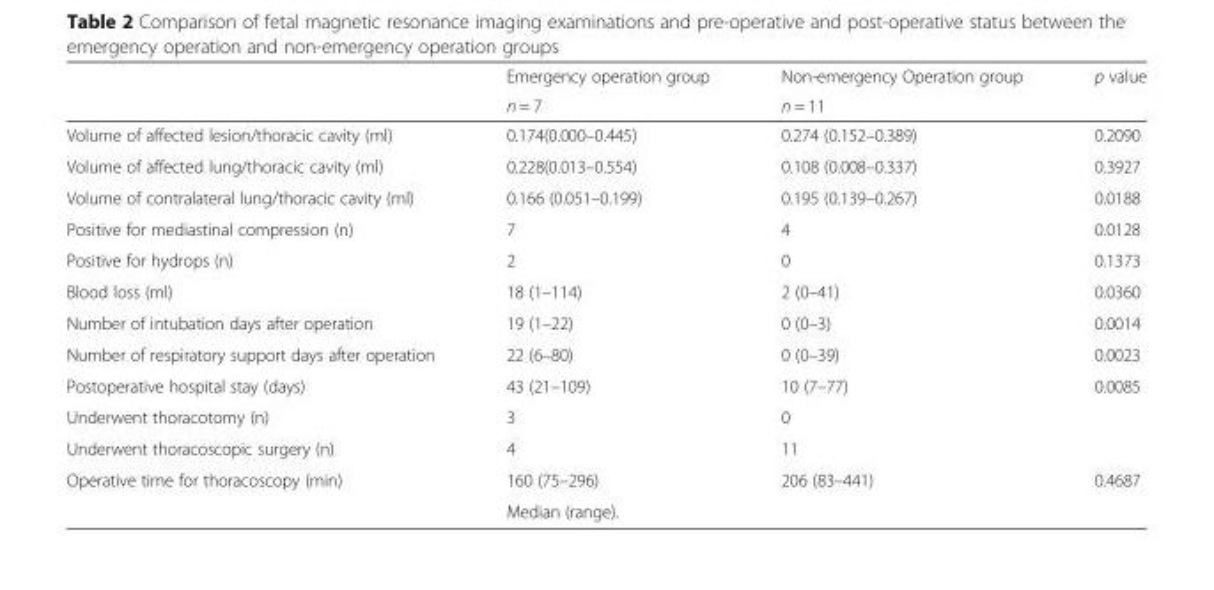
<table><thead><tr><td rowspan="2"></td><td rowspan="2">Emergency operation group n = 7</td><td rowspan="2">Non-emergency Operation group n = 11</td><td rowspan="2">p value</td></tr><tr></tr></thead><tbody><tr><td>Volume of affected lesion/thoracic cavity (ml)</td><td>0.174(0.000–0.445)</td><td>0.274 (0.152–0.389)</td><td>0.2090</td></tr><tr><td>Volume of affected lung/thoracic cavity (ml)</td><td>0.228(0.013–0.554)</td><td>0.108 (0.008–0.337)</td><td>0.3927</td></tr><tr><td>Volume of contralateral lung/thoracic cavity (ml)</td><td>0.166 (0.051–0.199)</td><td>0.195 (0.139–0.267)</td><td>0.0188</td></tr><tr><td>Positive for mediastinal compression (n)</td><td>7</td><td>4</td><td>0.0128</td></tr><tr><td>Positive for hydrops (n)</td><td>2</td><td>0</td><td>0.1373</td></tr><tr><td>Blood loss (ml)</td><td>18 (1–114)</td><td>2 (0–41)</td><td>0.0360</td></tr><tr><td>Number of intubation days after operation</td><td>19 (1–22)</td><td>0 (0–3)</td><td>0.0014</td></tr><tr><td>Number of respiratory support days after operation</td><td>22 (6–80)</td><td>0 (0–39)</td><td>0.0023</td></tr><tr><td>Postoperative hospital stay (days)</td><td>43 (21–109)</td><td>10 (7–77)</td><td>0.0085</td></tr><tr><td>Underwent thoracotomy (n)</td><td>3</td><td>0</td><td></td></tr><tr><td>Underwent thoracoscopic surgery (n)</td><td>4</td><td>11</td><td></td></tr><tr><td rowspan="2">Operative time for thoracoscopy (min)</td><td>160 (75–296)</td><td>206 (83–441)</td><td>0.4687</td></tr><tr><td colspan="3">Median (range).</td></tr></tbody></table>